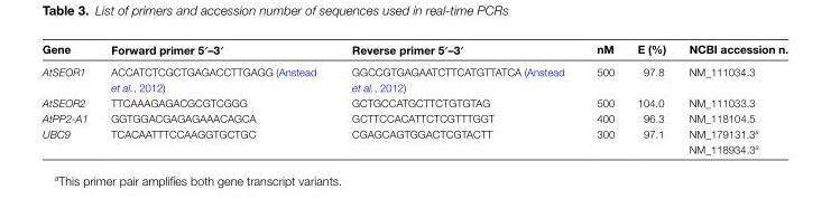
<table><thead><tr><td>Gene</td><td>Forward primer 5′–3′</td><td>Reverse primer 5′–3′</td><td>nM</td><td>E (%)</td><td>NCBI accession n.</td></tr></thead><tbody><tr><td>AtSEOR1</td><td>ACCATCTCGCTGAGACCTTGAGG (Anstead et al., 2012)</td><td>GGCCGTGAGAATCTTCATGTTATCA (Anstead et al., 2012)</td><td>500</td><td>97.8</td><td>NM_111034.3</td></tr><tr><td>AtSEOR2</td><td>TTCAAAGAGACGCGTCGGG</td><td>GCTGCCATGCTTCTGTGTAG</td><td>500</td><td>104.0</td><td>NM_111033.3</td></tr><tr><td>AtPP2-A1</td><td>GGTGGACGAGAGAAACAGCA</td><td>GCTTCCACATTCTCGTTTGGT</td><td>400</td><td>96.3</td><td>NM_118104.5</td></tr><tr><td>UBC9</td><td>TCACAATTTCCAAGGTGCTGC</td><td>CGAGCAGTGGACTCGTACTT</td><td>300</td><td>97.1</td><td>NM_179131.3<sup>a</sup> NM_118934.3<sup>a</sup></td></tr></tbody></table>